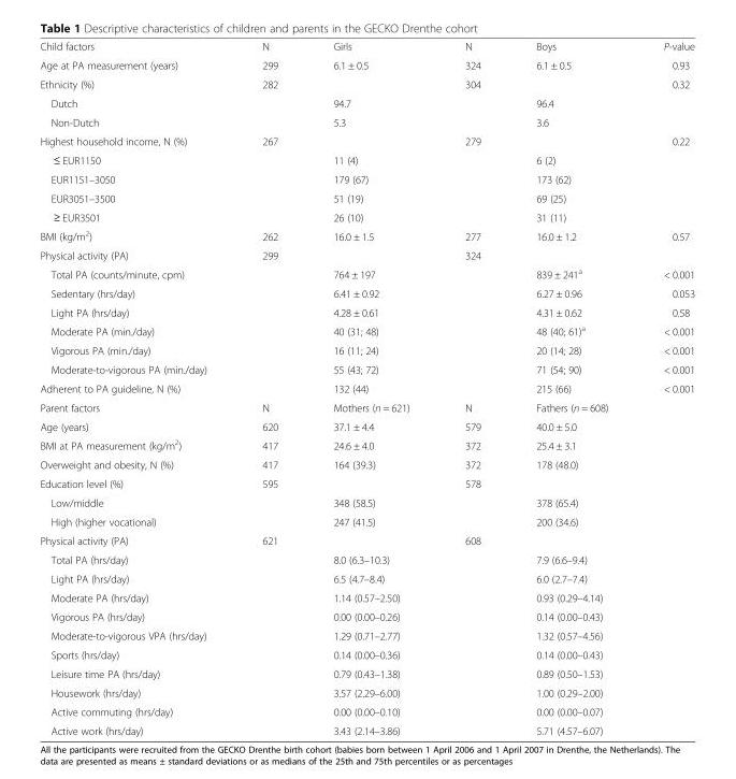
<table><tbody><tr><td>Child factors</td><td>N</td><td>Girls</td><td>N</td><td>Boys</td><td>P-value</td></tr><tr><td>Age at PA measurement (years)</td><td>299</td><td>6.1 ± 0.5</td><td>324</td><td>6.1 ± 0.5</td><td>0.93</td></tr><tr><td>Ethnicity (%)</td><td>282</td><td></td><td>304</td><td></td><td>0.32</td></tr><tr><td>Dutch</td><td></td><td>94.7</td><td></td><td>96.4</td><td></td></tr><tr><td>Non-Dutch</td><td></td><td>5.3</td><td></td><td>3.6</td><td></td></tr><tr><td>Highest household income, N (%)</td><td>267</td><td></td><td>279</td><td></td><td>0.22</td></tr><tr><td>≤ EUR1150</td><td></td><td>11 (4)</td><td></td><td>6 (2)</td><td></td></tr><tr><td>EUR1151–3050</td><td></td><td>179 (67)</td><td></td><td>173 (62)</td><td></td></tr><tr><td>EUR3051–3500</td><td></td><td>51 (19)</td><td></td><td>69 (25)</td><td></td></tr><tr><td>≥ EUR3501</td><td></td><td>26 (10)</td><td></td><td>31 (11)</td><td></td></tr><tr><td>BMI (kg/m<sup>2</sup>)</td><td>262</td><td>16.0 ± 1.5</td><td>277</td><td>16.0 ± 1.2</td><td>0.57</td></tr><tr><td>Physical activity (PA)</td><td>299</td><td></td><td>324</td><td></td><td></td></tr><tr><td>Total PA (counts/minute, cpm)</td><td></td><td>764 ± 197</td><td></td><td>839 ± 241<sup>a</sup></td><td>&lt; 0.001</td></tr><tr><td>Sedentary (hrs/day)</td><td></td><td>6.41 ± 0.92</td><td></td><td>6.27 ± 0.96</td><td>0.053</td></tr><tr><td>Light PA (hrs/day)</td><td></td><td>4.28 ± 0.61</td><td></td><td>4.31 ± 0.62</td><td>0.58</td></tr><tr><td>Moderate PA (min./day)</td><td></td><td>40 (31; 48)</td><td></td><td>48 (40; 61)<sup>a</sup></td><td>&lt; 0.001</td></tr><tr><td>Vigorous PA (min./day)</td><td></td><td>16 (11; 24)</td><td></td><td>20 (14; 28)</td><td>&lt; 0.001</td></tr><tr><td>Moderate-to-vigorous PA (min./day)</td><td></td><td>55 (43; 72)</td><td></td><td>71 (54; 90)</td><td>&lt; 0.001</td></tr><tr><td>Adherent to PA guideline, N (%)</td><td></td><td>132 (44)</td><td></td><td>215 (66)</td><td>&lt; 0.001</td></tr><tr><td>Parent factors</td><td>N</td><td>Mothers (n = 621)</td><td>N</td><td>Fathers (n = 608)</td><td></td></tr><tr><td>Age (years)</td><td>620</td><td>37.1 ± 4.4</td><td>579</td><td>40.0 ± 5.0</td><td></td></tr><tr><td>BMI at PA measurement (kg/m<sup>2</sup>)</td><td>417</td><td>24.6 ± 4.0</td><td>372</td><td>25.4 ± 3.1</td><td></td></tr><tr><td>Overweight and obesity, N (%)</td><td>417</td><td>164 (39.3)</td><td>372</td><td>178 (48.0)</td><td></td></tr><tr><td>Education level (%)</td><td>595</td><td></td><td>578</td><td></td><td></td></tr><tr><td>Low/middle</td><td></td><td>348 (58.5)</td><td></td><td>378 (65.4)</td><td></td></tr><tr><td>High (higher vocational)</td><td></td><td>247 (41.5)</td><td></td><td>200 (34.6)</td><td></td></tr><tr><td>Physical activity (PA)</td><td>621</td><td></td><td>608</td><td></td><td></td></tr><tr><td>Total PA (hrs/day)</td><td></td><td>8.0 (6.3–10.3)</td><td></td><td>7.9 (6.6–9.4)</td><td></td></tr><tr><td>Light PA (hrs/day)</td><td></td><td>6.5 (4.7–8.4)</td><td></td><td>6.0 (2.7–7.4)</td><td></td></tr><tr><td>Moderate PA (hrs/day)</td><td></td><td>1.14 (0.57–2.50)</td><td></td><td>0.93 (0.29–4.14)</td><td></td></tr><tr><td>Vigorous PA (hrs/day)</td><td></td><td>0.00 (0.00–0.26)</td><td></td><td>0.14 (0.00–0.43)</td><td></td></tr><tr><td>Moderate-to-vigorous VPA (hrs/day)</td><td></td><td>1.29 (0.71–2.77)</td><td></td><td>1.32 (0.57–4.56)</td><td></td></tr><tr><td>Sports (hrs/day)</td><td></td><td>0.14 (0.00–0.36)</td><td></td><td>0.14 (0.00–0.43)</td><td></td></tr><tr><td>Leisure time PA (hrs/day)</td><td></td><td>0.79 (0.43–1.38)</td><td></td><td>0.89 (0.50–1.53)</td><td></td></tr><tr><td>Housework (hrs/day)</td><td></td><td>3.57 (2.29–6.00)</td><td></td><td>1.00 (0.29–2.00)</td><td></td></tr><tr><td>Active commuting (hrs/day)</td><td></td><td>0.00 (0.00–0.10)</td><td></td><td>0.00 (0.00–0.07)</td><td></td></tr><tr><td>Active work (hrs/day)</td><td></td><td>3.43 (2.14–3.86)</td><td></td><td>5.71 (4.57–6.07)</td><td></td></tr></tbody></table>